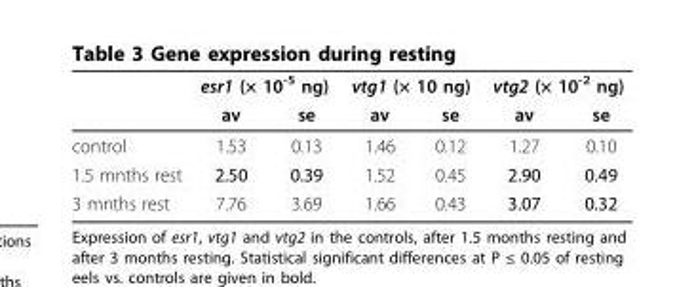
<table><thead><tr><td rowspan="2"></td><td colspan="2">esr1 (× 10<sup>-5</sup> ng)</td><td colspan="2">vtg1 (× 10 ng)</td><td colspan="2">vtg2 (× 10<sup>-2</sup> ng)</td></tr><tr><td>av</td><td>se</td><td>av</td><td>se</td><td>av</td><td>se</td></tr></thead><tbody><tr><td>control</td><td>1.53</td><td>0.13</td><td>1.46</td><td>0.12</td><td>1.27</td><td>0.10</td></tr><tr><td>1.5 mnths rest</td><td>2.50</td><td>0.39</td><td>1.52</td><td>0.45</td><td>2.90</td><td>0.49</td></tr><tr><td>3 mnths rest</td><td>7.76</td><td>3.69</td><td>1.66</td><td>0.43</td><td>3.07</td><td>0.32</td></tr></tbody></table>